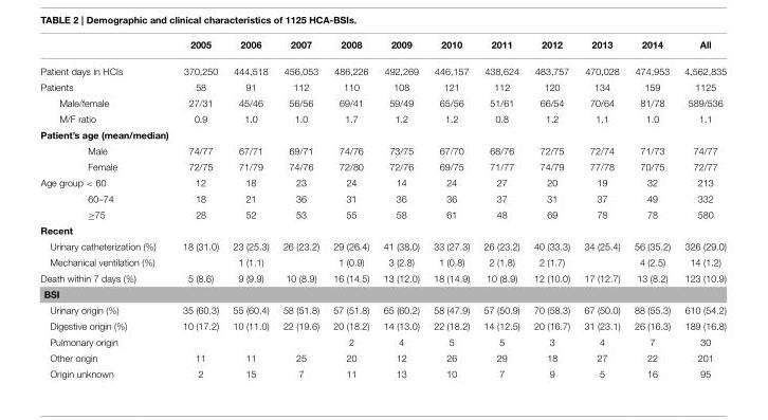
<table><thead><tr><td></td><td>2005</td><td>2006</td><td>2007</td><td>2008</td><td>2009</td><td>2010</td><td>2011</td><td>2012</td><td>2013</td><td>2014</td><td>All</td></tr></thead><tbody><tr><td>Patient days in HCIs</td><td>370,250</td><td>444,518</td><td>456,053</td><td>486,226</td><td>492,269</td><td>446,157</td><td>438,624</td><td>483,757</td><td>470,028</td><td>474,953</td><td>4,562,835</td></tr><tr><td>Patients</td><td>58</td><td>91</td><td>112</td><td>110</td><td>108</td><td>121</td><td>112</td><td>120</td><td>134</td><td>159</td><td>1125</td></tr><tr><td>Male/female</td><td>27/31</td><td>45/46</td><td>56/56</td><td>69/41</td><td>59/49</td><td>65/56</td><td>51/61</td><td>66/54</td><td>70/64</td><td>81/78</td><td>589/536</td></tr><tr><td>M/F ratio</td><td>0.9</td><td>1.0</td><td>1.0</td><td>1.7</td><td>1.2</td><td>1.2</td><td>0.8</td><td>1.2</td><td>1.1</td><td>1.0</td><td>1.1</td></tr><tr><td colspan="12">Patient’s age (mean/median)</td></tr><tr><td>Male</td><td>74/77</td><td>67/71</td><td>69/71</td><td>74/76</td><td>73/75</td><td>67/70</td><td>68/76</td><td>72/75</td><td>72/74</td><td>71/73</td><td>74/77</td></tr><tr><td>Female</td><td>72/75</td><td>71/79</td><td>74/76</td><td>72/80</td><td>72/76</td><td>69/75</td><td>71/77</td><td>74/79</td><td>77/78</td><td>70/75</td><td>72/77</td></tr><tr><td>Age group &lt; 60</td><td>12</td><td>18</td><td>23</td><td>24</td><td>14</td><td>24</td><td>27</td><td>20</td><td>19</td><td>32</td><td>213</td></tr><tr><td>60–74</td><td>18</td><td>21</td><td>36</td><td>31</td><td>36</td><td>36</td><td>37</td><td>31</td><td>37</td><td>49</td><td>332</td></tr><tr><td>≥75</td><td>28</td><td>52</td><td>53</td><td>55</td><td>58</td><td>61</td><td>48</td><td>69</td><td>78</td><td>78</td><td>580</td></tr><tr><td colspan="12">Recent</td></tr><tr><td>Urinary catheterization (%)</td><td>18 (31.0)</td><td>23 (25.3)</td><td>26 (23.2)</td><td>29 (26.4)</td><td>41 (38.0)</td><td>33 (27.3)</td><td>26 (23.2)</td><td>40 (33.3)</td><td>34 (25.4)</td><td>56 (35.2)</td><td>326 (29.0)</td></tr><tr><td>Mechanical ventilation (%)</td><td></td><td>1 (1.1)</td><td></td><td>1 (0.9)</td><td>3 (2.8)</td><td>1 (0.8)</td><td>2 (1.8)</td><td>2 (1.7)</td><td></td><td>4 (2.5)</td><td>14 (1.2)</td></tr><tr><td>Death within 7 days (%)</td><td>5 (8.6)</td><td>9 (9.9)</td><td>10 (8.9)</td><td>16 (14.5)</td><td>13 (12.0)</td><td>18 (14.9)</td><td>10 (8.9)</td><td>12 (10.0)</td><td>17 (12.7)</td><td>13 (8.2)</td><td>123 (10.9)</td></tr><tr><td colspan="12">BSI</td></tr><tr><td>Urinary origin (%)</td><td>35 (60.3)</td><td>55 (60.4)</td><td>58 (51.8)</td><td>57 (51.8)</td><td>65 (60.2)</td><td>58 (47.9)</td><td>57 (50.9)</td><td>70 (58.3)</td><td>67 (50.0)</td><td>88 (55.3)</td><td>610 (54.2)</td></tr><tr><td>Digestive origin (%)</td><td>10 (17.2)</td><td>10 (11.0)</td><td>22 (19.6)</td><td>20 (18.2)</td><td>14 (13.0)</td><td>22 (18.2)</td><td>14 (12.5)</td><td>20 (16.7)</td><td>31 (23.1)</td><td>26 (16.3)</td><td>189 (16.8)</td></tr><tr><td>Pulmonary origin</td><td></td><td></td><td></td><td>2</td><td>4</td><td>5</td><td>5</td><td>3</td><td>4</td><td>7</td><td>30</td></tr><tr><td>Other origin</td><td>11</td><td>11</td><td>25</td><td>20</td><td>12</td><td>26</td><td>29</td><td>18</td><td>27</td><td>22</td><td>201</td></tr><tr><td>Origin unknown</td><td>2</td><td>15</td><td>7</td><td>11</td><td>13</td><td>10</td><td>7</td><td>9</td><td>5</td><td>16</td><td>95</td></tr></tbody></table>